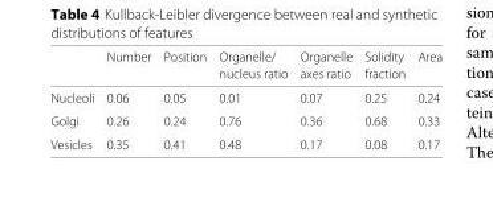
<table><thead><tr><td rowspan="2"></td><td rowspan="2">Number</td><td rowspan="2">Position</td><td rowspan="2">Organelle/ nucleus ratio</td><td rowspan="2">Organelle axes ratio</td><td rowspan="2">Solidity fraction</td><td rowspan="2">Area</td></tr><tr></tr></thead><tbody><tr><td>Nucleoli</td><td>0.06</td><td>0.05</td><td>0.01</td><td>0.07</td><td>0.25</td><td>0.24</td></tr><tr><td>Golgi</td><td>0.26</td><td>0.24</td><td>0.76</td><td>0.36</td><td>0.68</td><td>0.33</td></tr><tr><td>Vesicles</td><td>0.35</td><td>0.41</td><td>0.48</td><td>0.17</td><td>0.08</td><td>0.17</td></tr></tbody></table>